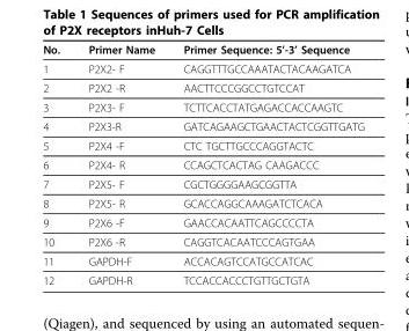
<table><thead><tr><td>No.</td><td>Primer Name</td><td>Primer Sequence: 5’-3’ Sequence</td></tr></thead><tbody><tr><td>1</td><td>P2X2- F</td><td>CAGGTTTGCCAAATACTACAAGATCA</td></tr><tr><td>2</td><td>P2X2 -R</td><td>AACTTCCCGGCCTGTCCAT</td></tr><tr><td>3</td><td>P2X3- F</td><td>TCTTCACCTATGAGACCACCAAGTC</td></tr><tr><td>4</td><td>P2X3-R</td><td>GATCAGAAGCTGAACTACTCGGTTGATG</td></tr><tr><td>5</td><td>P2X4 -F</td><td>CTC TGCTTGCCCAGGTACTC</td></tr><tr><td>6</td><td>P2X4- R</td><td>CCAGCTCACTAG CAAGACCC</td></tr><tr><td>7</td><td>P2X5- F</td><td>CGCTGGGGAAGCGGTTA</td></tr><tr><td>8</td><td>P2X5- R</td><td>GCACCAGGCAAAGATCTCACA</td></tr><tr><td>9</td><td>P2X6 -F</td><td>GAACCACAATTCAGCCCCTA</td></tr><tr><td>10</td><td>P2X6 -R</td><td>CAGGTCACAATCCCAGTGAA</td></tr><tr><td>11</td><td>GAPDH-F</td><td>ACCACAGTCCATGCCATCAC</td></tr><tr><td>12</td><td>GAPDH-R</td><td>TCCACCACCCTGTTGCTGTA</td></tr></tbody></table>